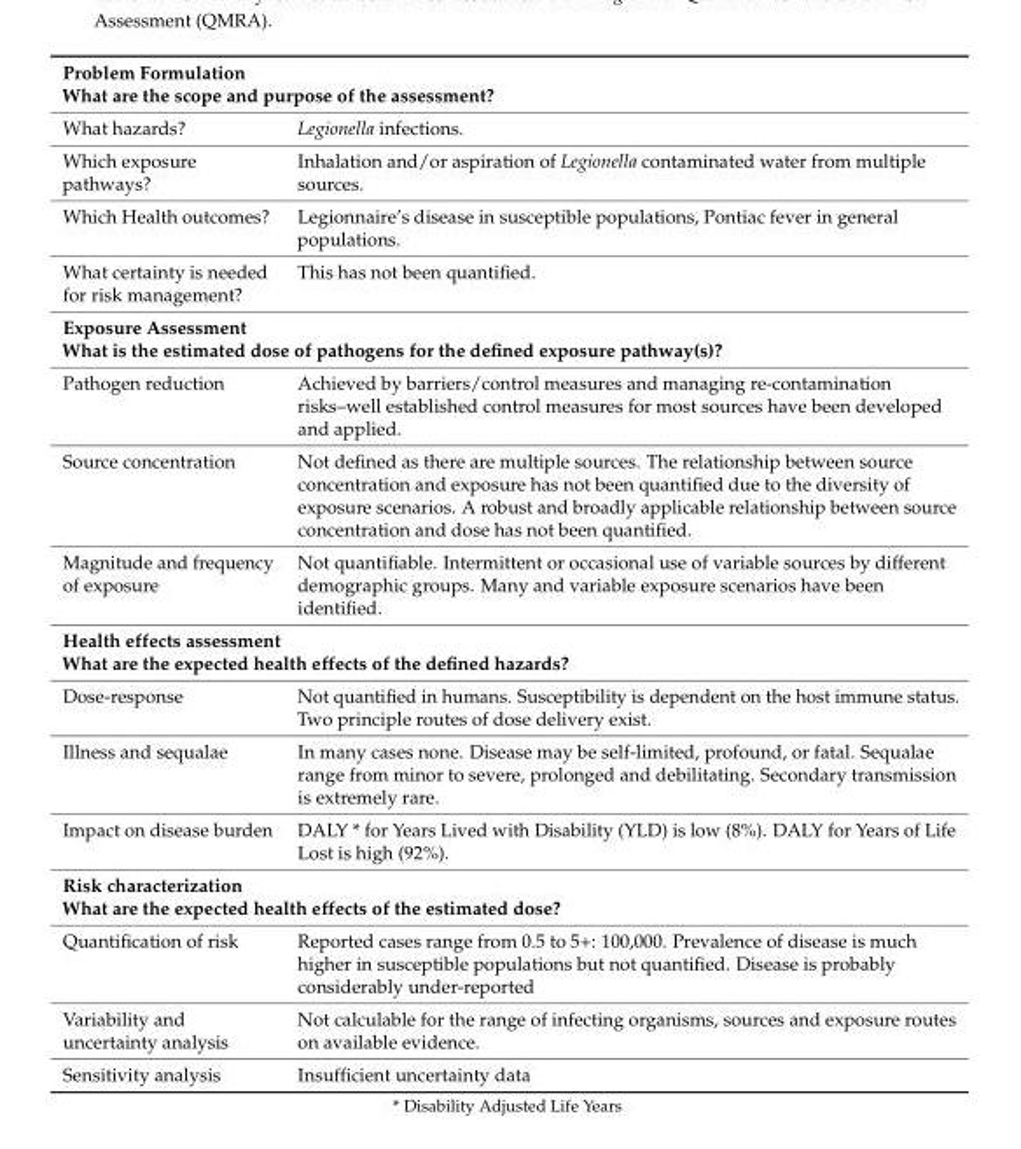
<table><tbody><tr><td colspan="2">Problem Formulation What are the scope and purpose of the assessment?</td></tr><tr><td>What hazards?</td><td>Legionella infections.</td></tr><tr><td>Which exposure pathways?</td><td>Inhalation and/or aspiration of Legionella contaminated water from multiple sources.</td></tr><tr><td>Which Health outcomes?</td><td>Legionnaire’s disease in susceptible populations, Pontiac fever in general populations.</td></tr><tr><td>What certainty is needed for risk management?</td><td>This has not been quantified.</td></tr><tr><td colspan="2">Exposure Assessment What is the estimated dose of pathogens for the defined exposure pathway(s)?</td></tr><tr><td>Pathogen reduction</td><td>Achieved by barriers/control measures and managing re-contamination risks–well established control measures for most sources have been developed and applied.</td></tr><tr><td>Source concentration</td><td>Not defined as there are multiple sources. The relationship between source concentration and exposure has not been quantified due to the diversity of exposure scenarios. A robust and broadly applicable relationship between source concentration and dose has not been quantified.</td></tr><tr><td>Magnitude and frequency of exposure</td><td>Not quantifiable. Intermittent or occasional use of variable sources by different demographic groups. Many and variable exposure scenarios have been identified.</td></tr><tr><td colspan="2">Health effects assessment What are the expected health effects of the defined hazards?</td></tr><tr><td>Dose-response</td><td>Not quantified in humans. Susceptibility is dependent on the host immune status. Two principle routes of dose delivery exist.</td></tr><tr><td>Illness and sequalae</td><td>In many cases none. Disease may be self-limited, profound, or fatal. Sequalae range from minor to severe, prolonged and debilitating. Secondary transmission is extremely rare.</td></tr><tr><td>Impact on disease burden</td><td>DALY * for Years Lived with Disability (YLD) is low (8%). DALY for Years of Life Lost is high (92%).</td></tr><tr><td colspan="2">Risk characterization What are the expected health effects of the estimated dose?</td></tr><tr><td>Quantification of risk</td><td>Reported cases range from 0.5 to 5+: 100,000. Prevalence of disease is much higher in susceptible populations but not quantified. Disease is probably considerably under-reported</td></tr><tr><td>Variability and uncertainty analysis</td><td>Not calculable for the range of infecting organisms, sources and exposure routes on available evidence.</td></tr><tr><td>Sensitivity analysis</td><td>Insufficient uncertainty data</td></tr></tbody></table>